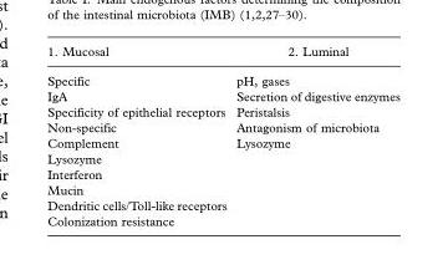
<table><thead><tr><td>1. Mucosal</td><td>2. Luminal</td></tr></thead><tbody><tr><td>Specific</td><td>pH, gases</td></tr><tr><td>IgA</td><td>Secretion of digestive enzymes</td></tr><tr><td>Specificity of epithelial receptors</td><td>Peristalsis</td></tr><tr><td>Non-specific</td><td>Antagonism of microbiota</td></tr><tr><td>Complement</td><td>Lysozyme</td></tr><tr><td colspan="2">Lysozyme</td></tr><tr><td colspan="2">Interferon</td></tr><tr><td colspan="2">Mucin</td></tr><tr><td colspan="2">Dendritic cells/Toll-like receptors</td></tr><tr><td>Colonization resistance</td><td></td></tr></tbody></table>